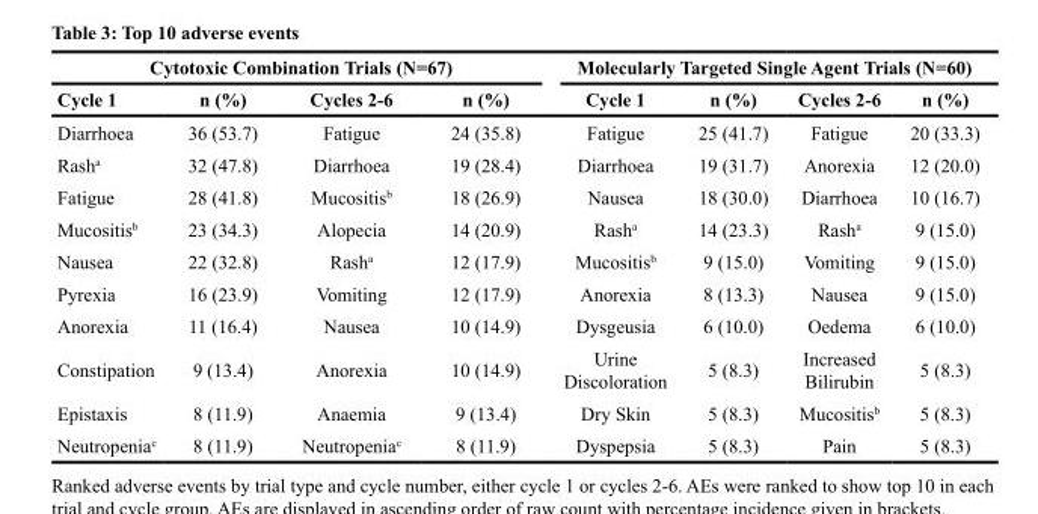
<table><thead><tr><td colspan="4">Cytotoxic Combination Trials (N=67)</td><td colspan="4">Molecularly Targeted Single Agent Trials (N=60)</td></tr><tr><td>Cycle 1</td><td>n (%)</td><td>Cycles 2-6</td><td>n (%)</td><td>Cycle 1</td><td>n (%)</td><td>Cycles 2-6</td><td>n (%)</td></tr></thead><tbody><tr><td>Diarrhoea</td><td>36 (53.7)</td><td>Fatigue</td><td>24 (35.8)</td><td>Fatigue</td><td>25 (41.7)</td><td>Fatigue</td><td>20 (33.3)</td></tr><tr><td>Rash<sup>a</sup></td><td>32 (47.8)</td><td>Diarrhoea</td><td>19 (28.4)</td><td>Diarrhoea</td><td>19 (31.7)</td><td>Anorexia</td><td>12 (20.0)</td></tr><tr><td>Fatigue</td><td>28 (41.8)</td><td>Mucositis<sup>b</sup></td><td>18 (26.9)</td><td>Nausea</td><td>18 (30.0)</td><td>Diarrhoea</td><td>10 (16.7)</td></tr><tr><td>Mucositis<sup>b</sup></td><td>23 (34.3)</td><td>Alopecia</td><td>14 (20.9)</td><td>Rash<sup>a</sup></td><td>14 (23.3)</td><td>Rash<sup>a</sup></td><td>9 (15.0)</td></tr><tr><td>Nausea</td><td>22 (32.8)</td><td>Rash<sup>a</sup></td><td>12 (17.9)</td><td>Mucositis<sup>b</sup></td><td>9 (15.0)</td><td>Vomiting</td><td>9 (15.0)</td></tr><tr><td>Pyrexia</td><td>16 (23.9)</td><td>Vomiting</td><td>12 (17.9)</td><td>Anorexia</td><td>8 (13.3)</td><td>Nausea</td><td>9 (15.0)</td></tr><tr><td>Anorexia</td><td>11 (16.4)</td><td>Nausea</td><td>10 (14.9)</td><td>Dysgeusia</td><td>6 (10.0)</td><td>Oedema</td><td>6 (10.0)</td></tr><tr><td>Constipation</td><td>9 (13.4)</td><td>Anorexia</td><td>10 (14.9)</td><td>Urine Discoloration</td><td>5 (8.3)</td><td>Increased Bilirubin</td><td>5 (8.3)</td></tr><tr><td>Epistaxis</td><td>8 (11.9)</td><td>Anaemia</td><td>9 (13.4)</td><td>Dry Skin</td><td>5 (8.3)</td><td>Mucositis<sup>b</sup></td><td>5 (8.3)</td></tr><tr><td>Neutropenia<sup>c</sup></td><td>8 (11.9)</td><td>Neutropenia<sup>c</sup></td><td>8 (11.9)</td><td>Dyspepsia</td><td>5 (8.3)</td><td>Pain</td><td>5 (8.3)</td></tr></tbody></table>